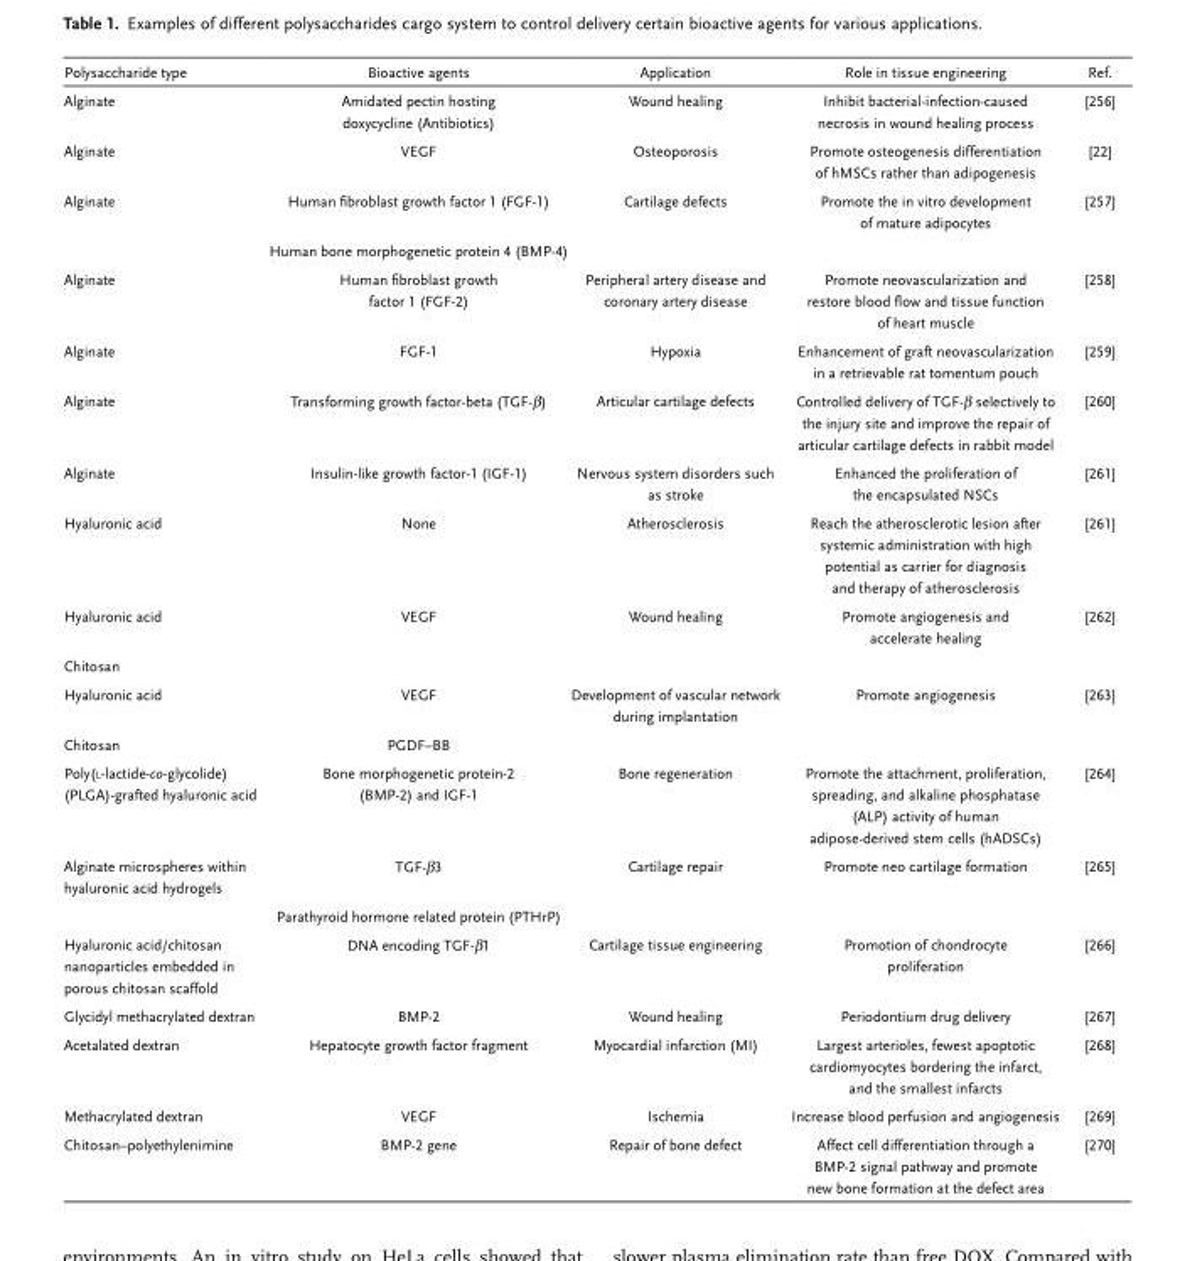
<table><thead><tr><td>Polysaccharide type</td><td>Bioactive agents</td><td>Application</td><td>Role in tissue engineering</td><td>Ref.</td></tr></thead><tbody><tr><td>Alginate</td><td>Amidated pectin hosting doxycycline (Antibiotics)</td><td>Wound healing</td><td>Inhibit bacterial-infection-caused necrosis in wound healing process</td><td>[256]</td></tr><tr><td>Alginate</td><td>VEGF</td><td>Osteoporosis</td><td>Promote osteogenesis differentiation of hMSCs rather than adipogenesis</td><td>[22]</td></tr><tr><td rowspan="2">Alginate</td><td>Human fibroblast growth factor 1 (FGF-1)</td><td>Cartilage defects</td><td>Promote the in vitro development of mature adipocytes</td><td>[257]</td></tr><tr><td>Human bone morphogenetic protein 4 (BMP-4)</td><td></td><td></td><td></td></tr><tr><td>Alginate</td><td>Human fibroblast growth factor 1 (FGF-2)</td><td>Peripheral artery disease and coronary artery disease</td><td>Promote neovascularization and restore blood flow and tissue function of heart muscle</td><td>[258]</td></tr><tr><td>Alginate</td><td>FGF-1</td><td>Hypoxia</td><td>Enhancement of graft neovascularization in a retrievable rat tomentum pouch</td><td>[259]</td></tr><tr><td>Alginate</td><td>Transforming growth factor-beta (TGF-β)</td><td>Articular cartilage defects</td><td>Controlled delivery of TGF-β selectively to the injury site and improve the repair of articular cartilage defects in rabbit model</td><td>[260]</td></tr><tr><td>Alginate</td><td>Insulin-like growth factor-1 (IGF-1)</td><td>Nervous system disorders such as stroke</td><td>Enhanced the proliferation of the encapsulated NSCs</td><td>[261]</td></tr><tr><td>Hyaluronic acid</td><td>None</td><td>Atherosclerosis</td><td>Reach the atherosclerotic lesion after systemic administration with high potential as carrier for diagnosis and therapy of atherosclerosis</td><td>[261]</td></tr><tr><td>Hyaluronic acid</td><td>VEGF</td><td>Wound healing</td><td>Promote angiogenesis and accelerate healing</td><td>[262]</td></tr><tr><td colspan="5">Chitosan</td></tr><tr><td>Hyaluronic acid</td><td>VEGF</td><td>Development of vascular network during implantation</td><td>Promote angiogenesis</td><td>[263]</td></tr><tr><td>Chitosan</td><td>PGDF–BB</td><td></td><td></td><td></td></tr><tr><td>Poly(l-lactide-co-glycolide) (PLGA)-grafted hyaluronic acid</td><td>Bone morphogenetic protein-2 (BMP-2) and IGF-1</td><td>Bone regeneration</td><td>Promote the attachment, proliferation, spreading, and alkaline phosphatase (ALP) activity of human adipose-derived stem cells (hADSCs)</td><td>[264]</td></tr><tr><td rowspan="2">Alginate microspheres within hyaluronic acid hydrogels</td><td>TGF-β3</td><td>Cartilage repair</td><td>Promote neo cartilage formation</td><td>[265]</td></tr><tr><td>Parathyroid hormone related protein (PTHrP)</td><td></td><td></td><td></td></tr><tr><td>Hyaluronic acid/chitosan nanoparticles embedded in porous chitosan scaffold</td><td>DNA encoding TGF-β1</td><td>Cartilage tissue engineering</td><td>Promotion of chondrocyte proliferation</td><td>[266]</td></tr><tr><td>Glycidyl methacrylated dextran</td><td>BMP-2</td><td>Wound healing</td><td>Periodontium drug delivery</td><td>[267]</td></tr><tr><td>Acetalated dextran</td><td>Hepatocyte growth factor fragment</td><td>Myocardial infarction (MI)</td><td>Largest arterioles, fewest apoptotic cardiomyocytes bordering the infarct, and the smallest infarcts</td><td>[268]</td></tr><tr><td>Methacrylated dextran</td><td>VEGF</td><td>Ischemia</td><td>Increase blood perfusion and angiogenesis</td><td>[269]</td></tr><tr><td>Chitosan–polyethylenimine</td><td>BMP-2 gene</td><td>Repair of bone defect</td><td>Affect cell differentiation through a BMP-2 signal pathway and promote new bone formation at the defect area</td><td>[270]</td></tr></tbody></table>